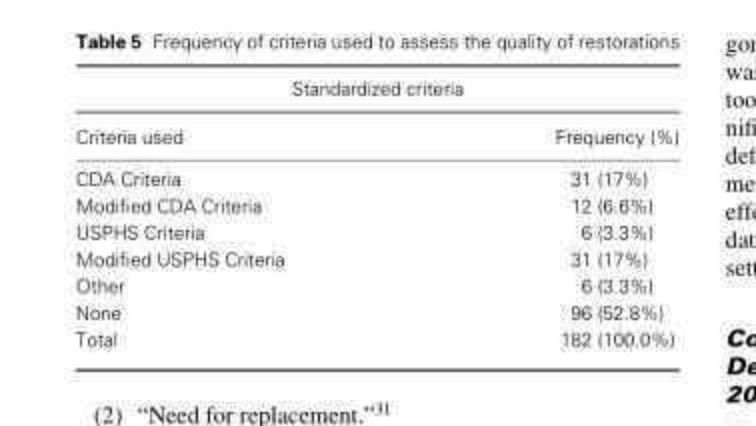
<table><thead><tr><td colspan="2">Standardized criteria</td></tr><tr><td>Criteria used</td><td>Frequency (%)</td></tr></thead><tbody><tr><td>CDA Criteria</td><td>31 (17%)</td></tr><tr><td>Modified CDA Criteria</td><td>12 (6.6%)</td></tr><tr><td>USPHS Criteria</td><td>6 (3.3%)</td></tr><tr><td>Modified USPHS Criteria</td><td>31 (17%)</td></tr><tr><td>Other</td><td>6 (3.3%)</td></tr><tr><td>None</td><td>96 (52.8%)</td></tr><tr><td>Total</td><td>182 (100.0%)</td></tr></tbody></table>